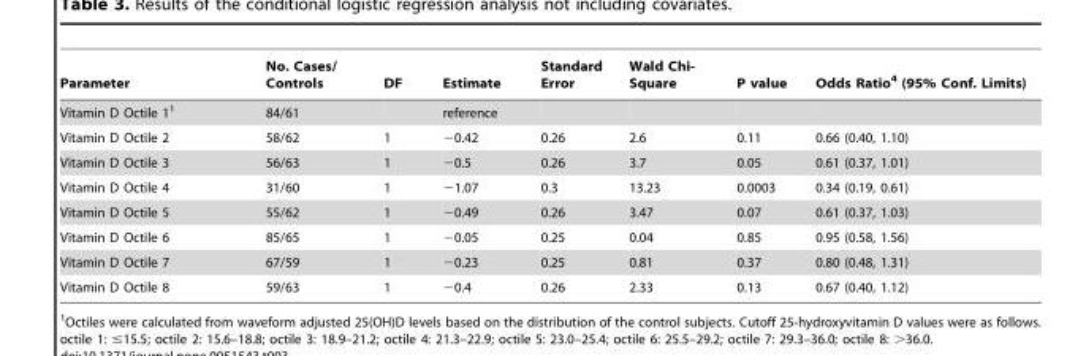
<table><thead><tr><td>Parameter</td><td>No. Cases/ Controls</td><td>DF</td><td>Estimate</td><td>Standard Error</td><td>Wald Chi- Square</td><td>P value</td><td>Odds Ratio<sup>4</sup> (95% Conf. Limits)</td></tr></thead><tbody><tr><td>Vitamin D Octile 1<sup>1</sup></td><td>84/61</td><td></td><td>reference</td><td></td><td></td><td></td><td></td></tr><tr><td>Vitamin D Octile 2</td><td>58/62</td><td>1</td><td>−0.42</td><td>0.26</td><td>2.6</td><td>0.11</td><td>0.66 (0.40, 1.10)</td></tr><tr><td>Vitamin D Octile 3</td><td>56/63</td><td>1</td><td>−0.5</td><td>0.26</td><td>3.7</td><td>0.05</td><td>0.61 (0.37, 1.01)</td></tr><tr><td>Vitamin D Octile 4</td><td>31/60</td><td>1</td><td>−1.07</td><td>0.3</td><td>13.23</td><td>0.0003</td><td>0.34 (0.19, 0.61)</td></tr><tr><td>Vitamin D Octile 5</td><td>55/62</td><td>1</td><td>−0.49</td><td>0.26</td><td>3.47</td><td>0.07</td><td>0.61 (0.37, 1.03)</td></tr><tr><td>Vitamin D Octile 6</td><td>85/65</td><td>1</td><td>−0.05</td><td>0.25</td><td>0.04</td><td>0.85</td><td>0.95 (0.58, 1.56)</td></tr><tr><td>Vitamin D Octile 7</td><td>67/59</td><td>1</td><td>−0.23</td><td>0.25</td><td>0.81</td><td>0.37</td><td>0.80 (0.48, 1.31)</td></tr><tr><td>Vitamin D Octile 8</td><td>59/63</td><td>1</td><td>−0.4</td><td>0.26</td><td>2.33</td><td>0.13</td><td>0.67 (0.40, 1.12)</td></tr></tbody></table>